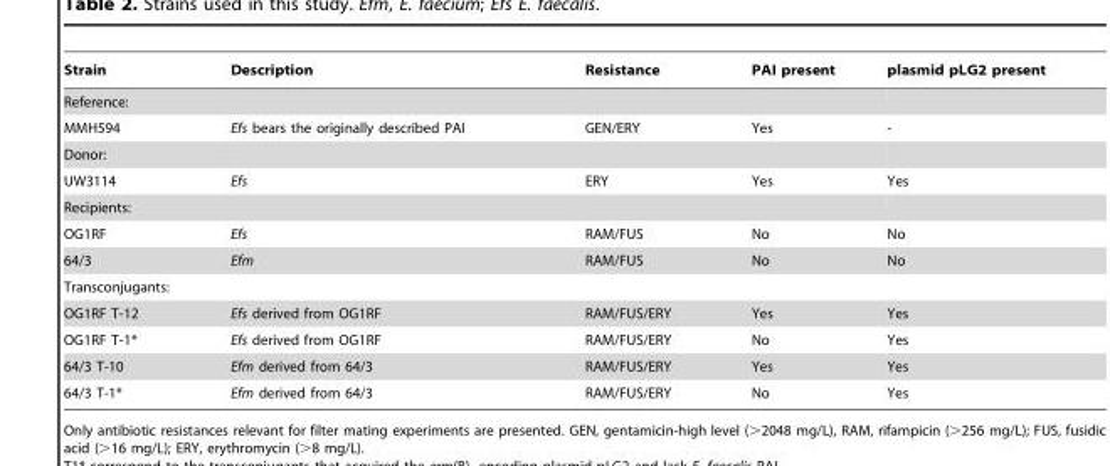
<table><thead><tr><td>Strain</td><td>Description</td><td>Resistance</td><td>PAI present</td><td>plasmid pLG2 present</td></tr></thead><tbody><tr><td colspan="5">Reference:</td></tr><tr><td>MMH594</td><td>Efs bears the originally described PAI</td><td>GEN/ERY</td><td>Yes</td><td>-</td></tr><tr><td colspan="5">Donor:</td></tr><tr><td>UW3114</td><td>Efs</td><td>ERY</td><td>Yes</td><td>Yes</td></tr><tr><td colspan="5">Recipients:</td></tr><tr><td>OG1RF</td><td>Efs</td><td>RAM/FUS</td><td>No</td><td>No</td></tr><tr><td>64/3</td><td>Efm</td><td>RAM/FUS</td><td>No</td><td>No</td></tr><tr><td colspan="5">Transconjugants:</td></tr><tr><td>OG1RF T-12</td><td>Efs derived from OG1RF</td><td>RAM/FUS/ERY</td><td>Yes</td><td>Yes</td></tr><tr><td>OG1RF T-1*</td><td>Efs derived from OG1RF</td><td>RAM/FUS/ERY</td><td>No</td><td>Yes</td></tr><tr><td>64/3 T-10</td><td>Efm derived from 64/3</td><td>RAM/FUS/ERY</td><td>Yes</td><td>Yes</td></tr><tr><td>64/3 T-1*</td><td>Efm derived from 64/3</td><td>RAM/FUS/ERY</td><td>No</td><td>Yes</td></tr></tbody></table>